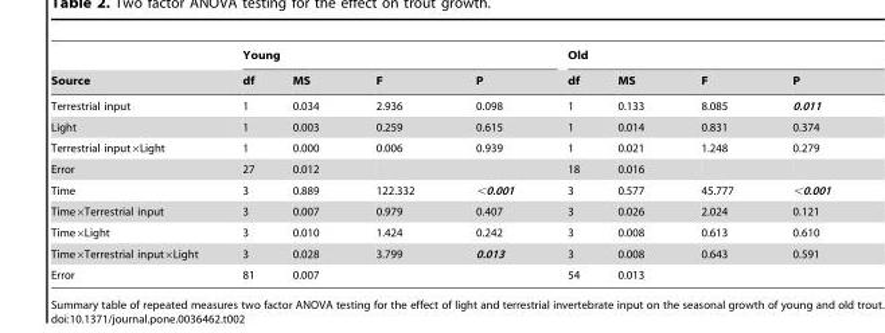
<table><thead><tr><td rowspan="2">Source</td><td colspan="4">Young</td><td colspan="4">Old</td></tr><tr><td>df</td><td>MS</td><td>F</td><td>P</td><td>df</td><td>MS</td><td>F</td><td>P</td></tr></thead><tbody><tr><td>Terrestrial input</td><td>1</td><td>0.034</td><td>2.936</td><td>0.098</td><td>1</td><td>0.133</td><td>8.085</td><td>0.011</td></tr><tr><td>Light</td><td>1</td><td>0.003</td><td>0.259</td><td>0.615</td><td>1</td><td>0.014</td><td>0.831</td><td>0.374</td></tr><tr><td>Terrestrial input×Light</td><td>1</td><td>0.000</td><td>0.006</td><td>0.939</td><td>1</td><td>0.021</td><td>1.248</td><td>0.279</td></tr><tr><td>Error</td><td>27</td><td>0.012</td><td></td><td></td><td>18</td><td>0.016</td><td></td><td></td></tr><tr><td>Time</td><td>3</td><td>0.889</td><td>122.332</td><td>&lt;0.001</td><td>3</td><td>0.577</td><td>45.777</td><td>&lt;0.001</td></tr><tr><td>Time×Terrestrial input</td><td>3</td><td>0.007</td><td>0.979</td><td>0.407</td><td>3</td><td>0.026</td><td>2.024</td><td>0.121</td></tr><tr><td>Time×Light</td><td>3</td><td>0.010</td><td>1.424</td><td>0.242</td><td>3</td><td>0.008</td><td>0.613</td><td>0.610</td></tr><tr><td>Time×Terrestrial input×Light</td><td>3</td><td>0.028</td><td>3.799</td><td>0.013</td><td>3</td><td>0.008</td><td>0.643</td><td>0.591</td></tr><tr><td>Error</td><td>81</td><td>0.007</td><td></td><td></td><td>54</td><td>0.013</td><td></td><td></td></tr></tbody></table>